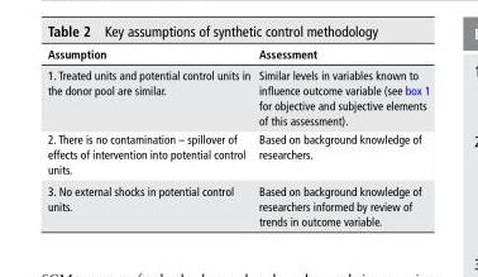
<table><thead><tr><td>Assumption</td><td>Assessment</td></tr></thead><tbody><tr><td>1. Treated units and potential control units in the donor pool are similar.</td><td>Similar levels in variables known to influence outcome variable (see box 1 for objective and subjective elements of this assessment).</td></tr><tr><td>2. There is no contamination – spillover of effects of intervention into potential control units.</td><td>Based on background knowledge of researchers.</td></tr><tr><td>3. No external shocks in potential control units.</td><td>Based on background knowledge of researchers informed by review of trends in outcome variable.</td></tr></tbody></table>